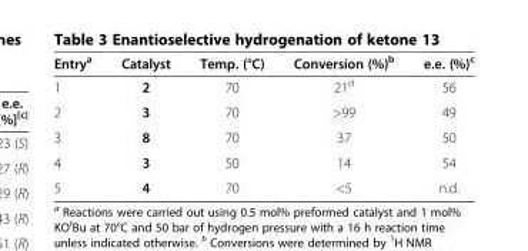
<table><thead><tr><td>Entry<sup>a</sup></td><td>Catalyst</td><td>Temp. (°C)</td><td>Conversion (%)<sup>b</sup></td><td>e.e. (%)<sup>c</sup></td></tr></thead><tbody><tr><td>1</td><td>2</td><td>70</td><td>21<sup>d</sup></td><td>56</td></tr><tr><td>2</td><td>3</td><td>70</td><td>&gt;99</td><td>49</td></tr><tr><td>3</td><td>8</td><td>70</td><td>37</td><td>50</td></tr><tr><td>4</td><td>3</td><td>50</td><td>14</td><td>54</td></tr><tr><td>5</td><td>4</td><td>70</td><td>&lt;5</td><td>n.d.</td></tr></tbody></table>